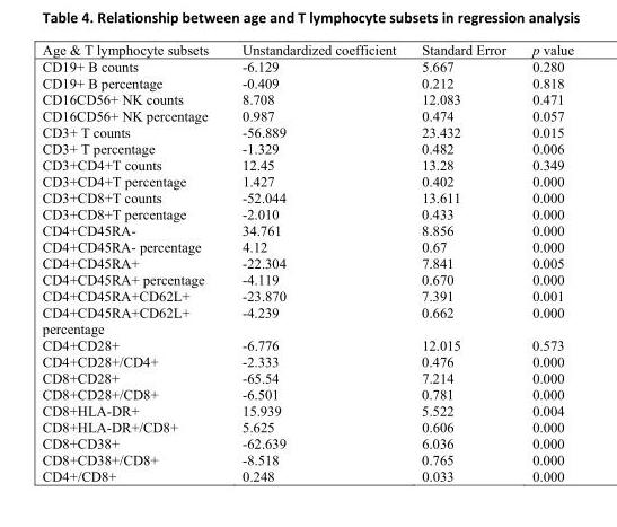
<table><thead><tr><td>Age &amp; T lymphocyte subsets</td><td>Unstandardized coefficient</td><td>Standard Error</td><td>p value</td></tr></thead><tbody><tr><td>CD19+ B counts</td><td>-6.129</td><td>5.667</td><td>0.280</td></tr><tr><td>CD19+ B percentage</td><td>-0.409</td><td>0.212</td><td>0.818</td></tr><tr><td>CD16CD56+ NK counts</td><td>8.708</td><td>12.083</td><td>0.471</td></tr><tr><td>CD16CD56+ NK percentage</td><td>0.987</td><td>0.474</td><td>0.057</td></tr><tr><td>CD3+ T counts</td><td>-56.889</td><td>23.432</td><td>0.015</td></tr><tr><td>CD3+ T percentage</td><td>-1.329</td><td>0.482</td><td>0.006</td></tr><tr><td>CD3+CD4+T counts</td><td>12.45</td><td>13.28</td><td>0.349</td></tr><tr><td>CD3+CD4+T percentage</td><td>1.427</td><td>0.402</td><td>0.000</td></tr><tr><td>CD3+CD8+T counts</td><td>-52.044</td><td>13.611</td><td>0.000</td></tr><tr><td>CD3+CD8+T percentage</td><td>-2.010</td><td>0.433</td><td>0.000</td></tr><tr><td>CD4+CD45RA-</td><td>34.761</td><td>8.856</td><td>0.000</td></tr><tr><td>CD4+CD45RA- percentage</td><td>4.12</td><td>0.67</td><td>0.000</td></tr><tr><td>CD4+CD45RA+</td><td>-22.304</td><td>7.841</td><td>0.005</td></tr><tr><td>CD4+CD45RA+ percentage</td><td>-4.119</td><td>0.670</td><td>0.000</td></tr><tr><td>CD4+CD45RA+CD62L+</td><td>-23.870</td><td>7.391</td><td>0.001</td></tr><tr><td>CD4+CD45RA+CD62L+ percentage</td><td>-4.239</td><td>0.662</td><td>0.000</td></tr><tr><td>CD4+CD28+</td><td>-6.776</td><td>12.015</td><td>0.573</td></tr><tr><td>CD4+CD28+/CD4+</td><td>-2.333</td><td>0.476</td><td>0.000</td></tr><tr><td>CD8+CD28+</td><td>-65.54</td><td>7.214</td><td>0.000</td></tr><tr><td>CD8+CD28+/CD8+</td><td>-6.501</td><td>0.781</td><td>0.000</td></tr><tr><td>CD8+HLA-DR+</td><td>15.939</td><td>5.522</td><td>0.004</td></tr><tr><td>CD8+HLA-DR+/CD8+</td><td>5.625</td><td>0.606</td><td>0.000</td></tr><tr><td>CD8+CD38+</td><td>-62.639</td><td>6.036</td><td>0.000</td></tr><tr><td>CD8+CD38+/CD8+</td><td>-8.518</td><td>0.765</td><td>0.000</td></tr><tr><td>CD4+/CD8+</td><td>0.248</td><td>0.033</td><td>0.000</td></tr></tbody></table>